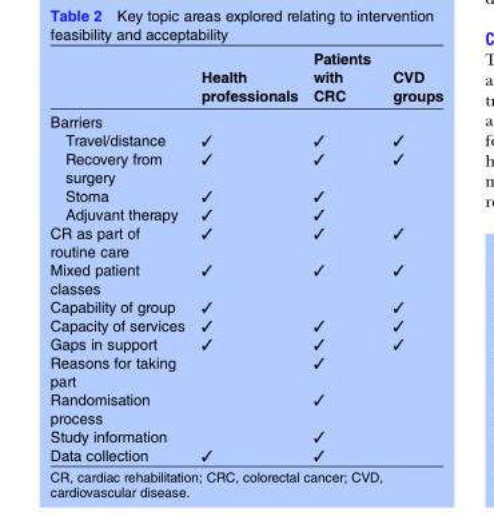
<table><thead><tr><td></td><td>Health professionals</td><td>Patients with CRC</td><td>CVD groups</td></tr></thead><tbody><tr><td colspan="4">Barriers</td></tr><tr><td>Travel/distance</td><td>✓</td><td>✓</td><td>✓</td></tr><tr><td>Recovery from surgery</td><td>✓</td><td>✓</td><td>✓</td></tr><tr><td>Stoma</td><td>✓</td><td>✓</td><td></td></tr><tr><td>Adjuvant therapy</td><td>✓</td><td>✓</td><td></td></tr><tr><td>CR as part of routine care</td><td>✓</td><td>✓</td><td>✓</td></tr><tr><td>Mixed patient classes</td><td>✓</td><td>✓</td><td>✓</td></tr><tr><td>Capability of group</td><td>✓</td><td></td><td>✓</td></tr><tr><td>Capacity of services</td><td>✓</td><td>✓</td><td>✓</td></tr><tr><td>Gaps in support</td><td>✓</td><td>✓</td><td>✓</td></tr><tr><td>Reasons for taking part</td><td></td><td>✓</td><td></td></tr><tr><td>Randomisation process</td><td></td><td>✓</td><td></td></tr><tr><td>Study information</td><td></td><td>✓</td><td></td></tr><tr><td>Data collection</td><td>✓</td><td>✓</td><td></td></tr></tbody></table>